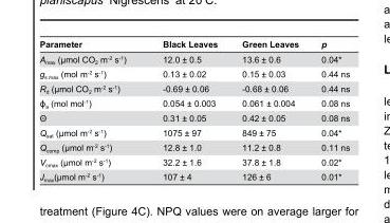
<table><thead><tr><td>Parameter</td><td>Black Leaves</td><td>Green Leaves</td><td>p</td></tr></thead><tbody><tr><td>A<sub>max</sub> (µmol CO<sub>2</sub> m<sup>-2</sup> s<sup>-1</sup>)</td><td>12.0 ± 0.5</td><td>13.6 ± 0.6</td><td>0.04*</td></tr><tr><td>g<sub>s max</sub> (mol m<sup>-2</sup> s<sup>-1</sup>)</td><td>0.13 ± 0.02</td><td>0.15 ± 0.03</td><td>0.44 ns</td></tr><tr><td>R<sub>d</sub> (µmol CO<sub>2</sub> m<sup>-2</sup> s<sup>-1</sup>)</td><td>-0.69 ± 0.06</td><td>-0.68 ± 0.06</td><td>0.44 ns</td></tr><tr><td>ϕ<sub>a</sub> (mol mol<sup>-1</sup>)</td><td>0.054 ± 0.003</td><td>0.061 ± 0.004</td><td>0.08 ns</td></tr><tr><td>Θ</td><td>0.31 ± 0.05</td><td>0.42 ± 0.05</td><td>0.08 ns</td></tr><tr><td>Q<sub>sat</sub> (µmol m<sup>-2</sup> s<sup>-1</sup>)</td><td>1075 ± 97</td><td>849 ± 75</td><td>0.04*</td></tr><tr><td>Q<sub>comp</sub> (µmol m<sup>-2</sup> s<sup>-1</sup>)</td><td>12.8 ± 1.0</td><td>11.2 ± 0.8</td><td>0.11 ns</td></tr><tr><td>V<sub>cmax</sub> (µmol m<sup>-2</sup> s<sup>-1</sup>)</td><td>32.2 ± 1.6</td><td>37.8 ± 1.8</td><td>0.02*</td></tr><tr><td>J<sub>max</sub>(µmol m<sup>-2</sup> s<sup>-1</sup>)</td><td>107 ± 4</td><td>126 ± 6</td><td>0.01*</td></tr></tbody></table>